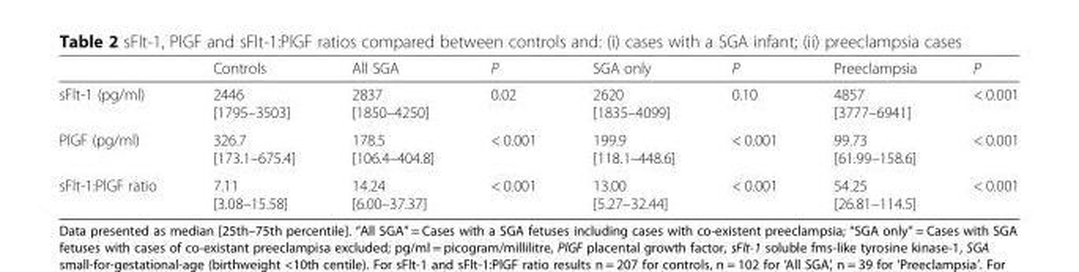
<table><thead><tr><td></td><td>Controls</td><td>All SGA</td><td>P</td><td>SGA only</td><td>P</td><td>Preeclampsia</td><td>P</td></tr></thead><tbody><tr><td>sFlt-1 (pg/ml)</td><td>2446 [1795–3503]</td><td>2837 [1850–4250]</td><td>0.02</td><td>2620 [1835–4099]</td><td>0.10</td><td>4857 [3777–6941]</td><td>&lt; 0.001</td></tr><tr><td>PlGF (pg/ml)</td><td>326.7 [173.1–675.4]</td><td>178.5 [106.4–404.8]</td><td>&lt; 0.001</td><td>199.9 [118.1–448.6]</td><td>&lt; 0.001</td><td>99.73 [61.99–158.6]</td><td>&lt; 0.001</td></tr><tr><td>sFlt-1:PlGF ratio</td><td>7.11 [3.08–15.58]</td><td>14.24 [6.00–37.37]</td><td>&lt; 0.001</td><td>13.00 [5.27–32.44]</td><td>&lt; 0.001</td><td>54.25 [26.81–114.5]</td><td>&lt; 0.001</td></tr></tbody></table>